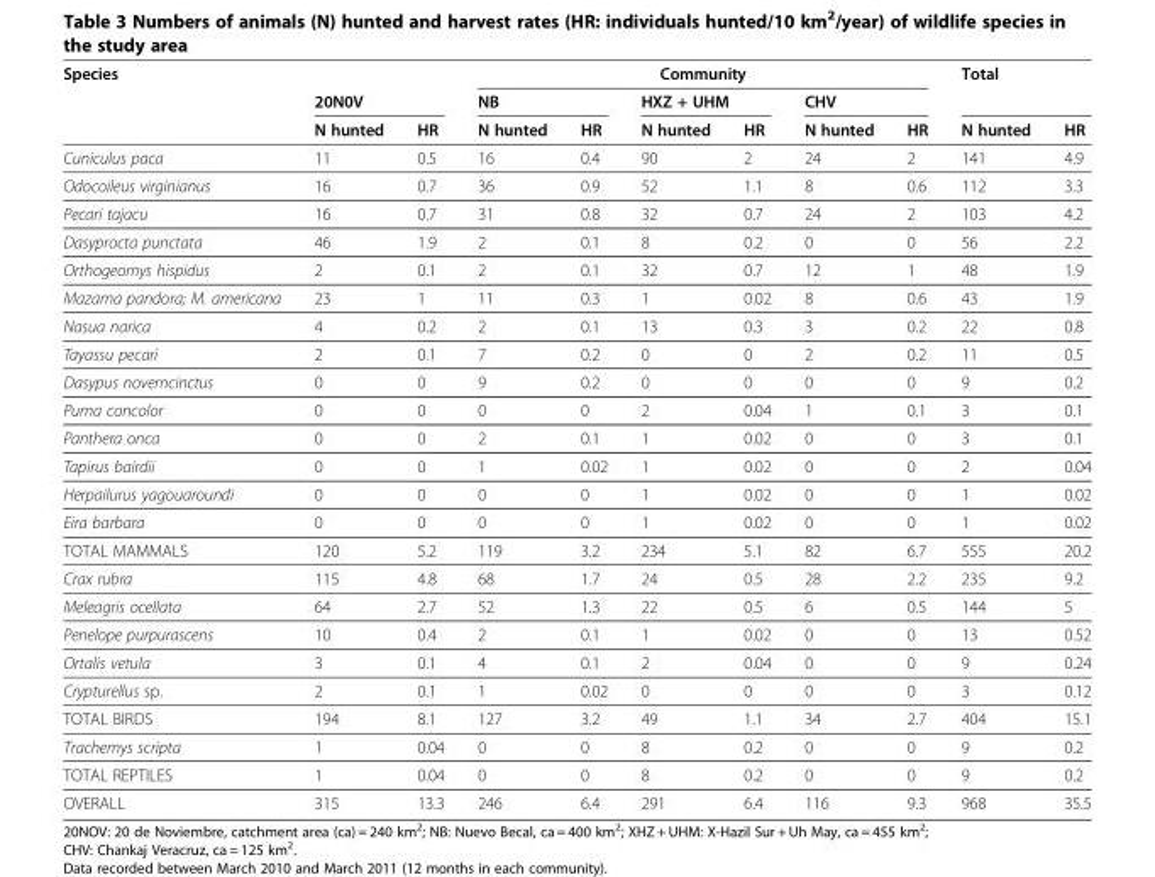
<table><thead><tr><td rowspan="3">Species</td><td></td><td></td><td colspan="6">Community</td><td colspan="2">Total</td></tr><tr><td colspan="2">20N0V</td><td colspan="2">NB</td><td colspan="2">HXZ + UHM</td><td colspan="2">CHV</td><td rowspan="2">N hunted</td><td rowspan="2">HR</td></tr><tr><td>N hunted</td><td>HR</td><td>N hunted</td><td>HR</td><td>N hunted</td><td>HR</td><td>N hunted</td><td>HR</td></tr></thead><tbody><tr><td>Cuniculus paca</td><td>11</td><td>0.5</td><td>16</td><td>0.4</td><td>90</td><td>2</td><td>24</td><td>2</td><td>141</td><td>4.9</td></tr><tr><td>Odocoileus virginianus</td><td>16</td><td>0.7</td><td>36</td><td>0.9</td><td>52</td><td>1.1</td><td>8</td><td>0.6</td><td>112</td><td>3.3</td></tr><tr><td>Pecari tajacu</td><td>16</td><td>0.7</td><td>31</td><td>0.8</td><td>32</td><td>0.7</td><td>24</td><td>2</td><td>103</td><td>4.2</td></tr><tr><td>Dasyprocta punctata</td><td>46</td><td>1.9</td><td>2</td><td>0.1</td><td>8</td><td>0.2</td><td>0</td><td>0</td><td>56</td><td>2.2</td></tr><tr><td>Orthogeomys hispidus</td><td>2</td><td>0.1</td><td>2</td><td>0.1</td><td>32</td><td>0.7</td><td>12</td><td>1</td><td>48</td><td>1.9</td></tr><tr><td>Mazama pandora; M. americana</td><td>23</td><td>1</td><td>11</td><td>0.3</td><td>1</td><td>0.02</td><td>8</td><td>0.6</td><td>43</td><td>1.9</td></tr><tr><td>Nasua narica</td><td>4</td><td>0.2</td><td>2</td><td>0.1</td><td>13</td><td>0.3</td><td>3</td><td>0.2</td><td>22</td><td>0.8</td></tr><tr><td>Tayassu pecari</td><td>2</td><td>0.1</td><td>7</td><td>0.2</td><td>0</td><td>0</td><td>2</td><td>0.2</td><td>11</td><td>0.5</td></tr><tr><td>Dasypus novemcinctus</td><td>0</td><td>0</td><td>9</td><td>0.2</td><td>0</td><td>0</td><td>0</td><td>0</td><td>9</td><td>0.2</td></tr><tr><td>Puma concolor</td><td>0</td><td>0</td><td>0</td><td>0</td><td>2</td><td>0.04</td><td>1</td><td>0.1</td><td>3</td><td>0.1</td></tr><tr><td>Panthera onca</td><td>0</td><td>0</td><td>2</td><td>0.1</td><td>1</td><td>0.02</td><td>0</td><td>0</td><td>3</td><td>0.1</td></tr><tr><td>Tapirus bairdii</td><td>0</td><td>0</td><td>1</td><td>0.02</td><td>1</td><td>0.02</td><td>0</td><td>0</td><td>2</td><td>0.04</td></tr><tr><td>Herpailurus yagouaroundi</td><td>0</td><td>0</td><td>0</td><td>0</td><td>1</td><td>0.02</td><td>0</td><td>0</td><td>1</td><td>0.02</td></tr><tr><td>Eira barbara</td><td>0</td><td>0</td><td>0</td><td>0</td><td>1</td><td>0.02</td><td>0</td><td>0</td><td>1</td><td>0.02</td></tr><tr><td>TOTAL MAMMALS</td><td>120</td><td>5.2</td><td>119</td><td>3.2</td><td>234</td><td>5.1</td><td>82</td><td>6.7</td><td>555</td><td>20.2</td></tr><tr><td>Crax rubra</td><td>115</td><td>4.8</td><td>68</td><td>1.7</td><td>24</td><td>0.5</td><td>28</td><td>2.2</td><td>235</td><td>9.2</td></tr><tr><td>Meleagris ocellata</td><td>64</td><td>2.7</td><td>52</td><td>1.3</td><td>22</td><td>0.5</td><td>6</td><td>0.5</td><td>144</td><td>5</td></tr><tr><td>Penelope purpurascens</td><td>10</td><td>0.4</td><td>2</td><td>0.1</td><td>1</td><td>0.02</td><td>0</td><td>0</td><td>13</td><td>0.52</td></tr><tr><td>Ortalis vetula</td><td>3</td><td>0.1</td><td>4</td><td>0.1</td><td>2</td><td>0.04</td><td>0</td><td>0</td><td>9</td><td>0.24</td></tr><tr><td>Crypturellus sp.</td><td>2</td><td>0.1</td><td>1</td><td>0.02</td><td>0</td><td>0</td><td>0</td><td>0</td><td>3</td><td>0.12</td></tr><tr><td>TOTAL BIRDS</td><td>194</td><td>8.1</td><td>127</td><td>3.2</td><td>49</td><td>1.1</td><td>34</td><td>2.7</td><td>404</td><td>15.1</td></tr><tr><td>Trachemys scripta</td><td>1</td><td>0.04</td><td>0</td><td>0</td><td>8</td><td>0.2</td><td>0</td><td>0</td><td>9</td><td>0.2</td></tr><tr><td>TOTAL REPTILES</td><td>1</td><td>0.04</td><td>0</td><td>0</td><td>8</td><td>0.2</td><td>0</td><td>0</td><td>9</td><td>0.2</td></tr><tr><td>OVERALL</td><td>315</td><td>13.3</td><td>246</td><td>6.4</td><td>291</td><td>6.4</td><td>116</td><td>9.3</td><td>968</td><td>35.5</td></tr></tbody></table>